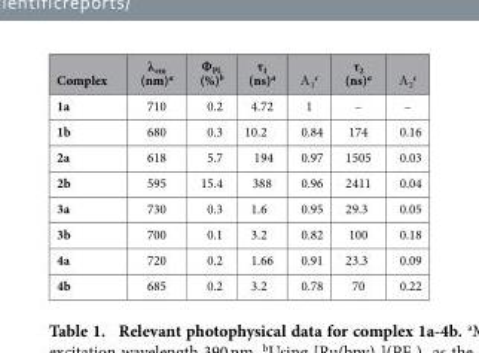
<table><thead><tr><td>Complex</td><td>λ<sub>em</sub> (nm)<sup>a</sup></td><td>Ф<sub>PL</sub> (%)<sup>b</sup></td><td>τ<sub>1</sub> (ns)<sup>a</sup></td><td>Α <sub>1</sub> <sup>c</sup></td><td>τ<sub>2</sub> (ns)<sup>a</sup></td><td>Α <sub>2</sub> <sup>c</sup></td></tr></thead><tbody><tr><td>1a</td><td>710</td><td>0.2</td><td>4.72</td><td>1</td><td>–</td><td>–</td></tr><tr><td>1b</td><td>680</td><td>0.3</td><td>10.2</td><td>0.84</td><td>174</td><td>0.16</td></tr><tr><td>2a</td><td>618</td><td>5.7</td><td>194</td><td>0.97</td><td>1505</td><td>0.03</td></tr><tr><td>2b</td><td>595</td><td>15.4</td><td>388</td><td>0.96</td><td>2411</td><td>0.04</td></tr><tr><td>3a</td><td>730</td><td>0.3</td><td>1.6</td><td>0.95</td><td>29.3</td><td>0.05</td></tr><tr><td>3b</td><td>700</td><td>0.1</td><td>3.2</td><td>0.82</td><td>100</td><td>0.18</td></tr><tr><td>4a</td><td>720</td><td>0.2</td><td>1.66</td><td>0.91</td><td>23.3</td><td>0.09</td></tr><tr><td>4b</td><td>685</td><td>0.2</td><td>3.2</td><td>0.78</td><td>70</td><td>0.22</td></tr></tbody></table>